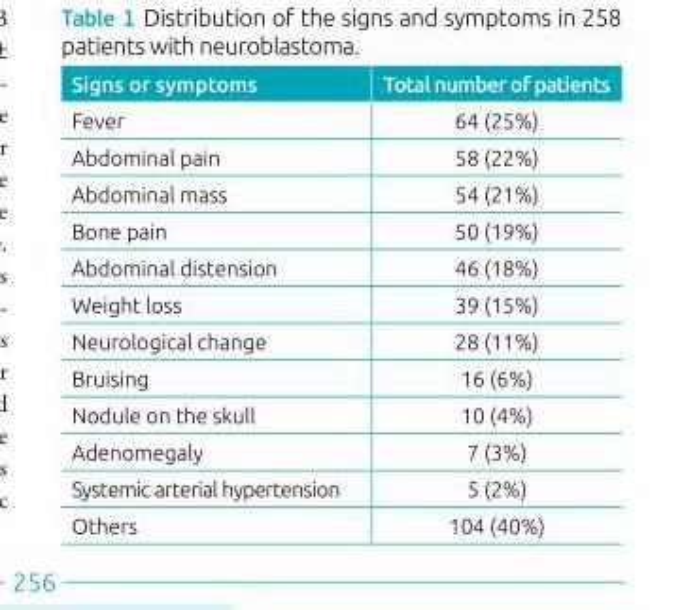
<table><thead><tr><td>Signs or symptoms</td><td>Total number of patients</td></tr></thead><tbody><tr><td>Fever</td><td>64 (25%)</td></tr><tr><td>Abdominal pain</td><td>58 (22%)</td></tr><tr><td>Abdominal mass</td><td>54 (21%)</td></tr><tr><td>Bone pain</td><td>50 (19%)</td></tr><tr><td>Abdominal distension</td><td>46 (18%)</td></tr><tr><td>Weight loss</td><td>39 (15%)</td></tr><tr><td>Neurological change</td><td>28 (11%)</td></tr><tr><td>Bruising</td><td>16 (6%)</td></tr><tr><td>Nodule on the skull</td><td>10 (4%)</td></tr><tr><td>Adenomegaly</td><td>7 (3%)</td></tr><tr><td>Systemic arterial hypertension</td><td>5 (2%)</td></tr><tr><td>Others</td><td>104 (40%)</td></tr></tbody></table>